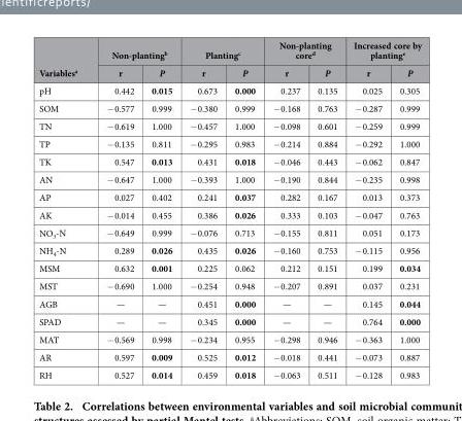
<table><thead><tr><td rowspan="2">Variables<sup>a</sup></td><td colspan="2">Non-planting<sup>b</sup></td><td colspan="2">Planting<sup>c</sup></td><td colspan="2">Non-planting core<sup>d</sup></td><td colspan="2">Increased core by planting<sup>e</sup></td></tr><tr><td>r</td><td>P</td><td>r</td><td>P</td><td>r</td><td>P</td><td>r</td><td>P</td></tr></thead><tbody><tr><td>pH</td><td>0.442</td><td>0.015</td><td>0.673</td><td>0.000</td><td>0.237</td><td>0.135</td><td>0.025</td><td>0.305</td></tr><tr><td>SOM</td><td>− 0.577</td><td>0.999</td><td>− 0.380</td><td>0.999</td><td>− 0.168</td><td>0.763</td><td>− 0.287</td><td>0.999</td></tr><tr><td>TN</td><td>− 0.619</td><td>1.000</td><td>− 0.457</td><td>1.000</td><td>− 0.098</td><td>0.601</td><td>− 0.259</td><td>0.999</td></tr><tr><td>TP</td><td>− 0.135</td><td>0.811</td><td>− 0.295</td><td>0.983</td><td>− 0.214</td><td>0.884</td><td>− 0.292</td><td>1.000</td></tr><tr><td>TK</td><td>0.547</td><td>0.013</td><td>0.431</td><td>0.018</td><td>− 0.046</td><td>0.443</td><td>− 0.062</td><td>0.847</td></tr><tr><td>AN</td><td>− 0.647</td><td>1.000</td><td>− 0.393</td><td>1.000</td><td>− 0.190</td><td>0.844</td><td>− 0.235</td><td>0.998</td></tr><tr><td>AP</td><td>0.027</td><td>0.402</td><td>0.241</td><td>0.037</td><td>0.282</td><td>0.167</td><td>0.013</td><td>0.373</td></tr><tr><td>AK</td><td>− 0.014</td><td>0.455</td><td>0.386</td><td>0.026</td><td>0.333</td><td>0.103</td><td>− 0.047</td><td>0.763</td></tr><tr><td>NO<sub>3</sub>-N</td><td>− 0.649</td><td>0.999</td><td>− 0.076</td><td>0.713</td><td>− 0.155</td><td>0.811</td><td>0.051</td><td>0.173</td></tr><tr><td>NH<sub>4</sub>-N</td><td>0.289</td><td>0.026</td><td>0.435</td><td>0.026</td><td>− 0.160</td><td>0.753</td><td>− 0.115</td><td>0.956</td></tr><tr><td>MSM</td><td>0.632</td><td>0.001</td><td>0.225</td><td>0.062</td><td>0.212</td><td>0.151</td><td>0.199</td><td>0.034</td></tr><tr><td>MST</td><td>− 0.690</td><td>1.000</td><td>− 0.254</td><td>0.948</td><td>− 0.207</td><td>0.891</td><td>0.037</td><td>0.231</td></tr><tr><td>AGB</td><td>—</td><td>—</td><td>0.451</td><td>0.000</td><td>—</td><td>—</td><td>0.145</td><td>0.044</td></tr><tr><td>SPAD</td><td>—</td><td>—</td><td>0.345</td><td>0.000</td><td>—</td><td>—</td><td>0.764</td><td>0.000</td></tr><tr><td>MAT</td><td>− 0.569</td><td>0.998</td><td>− 0.234</td><td>0.955</td><td>− 0.298</td><td>0.946</td><td>− 0.363</td><td>1.000</td></tr><tr><td>AR</td><td>0.597</td><td>0.009</td><td>0.525</td><td>0.012</td><td>− 0.018</td><td>0.441</td><td>− 0.073</td><td>0.887</td></tr><tr><td>RH</td><td>0.527</td><td>0.014</td><td>0.459</td><td>0.018</td><td>− 0.063</td><td>0.511</td><td>− 0.128</td><td>0.983</td></tr></tbody></table>